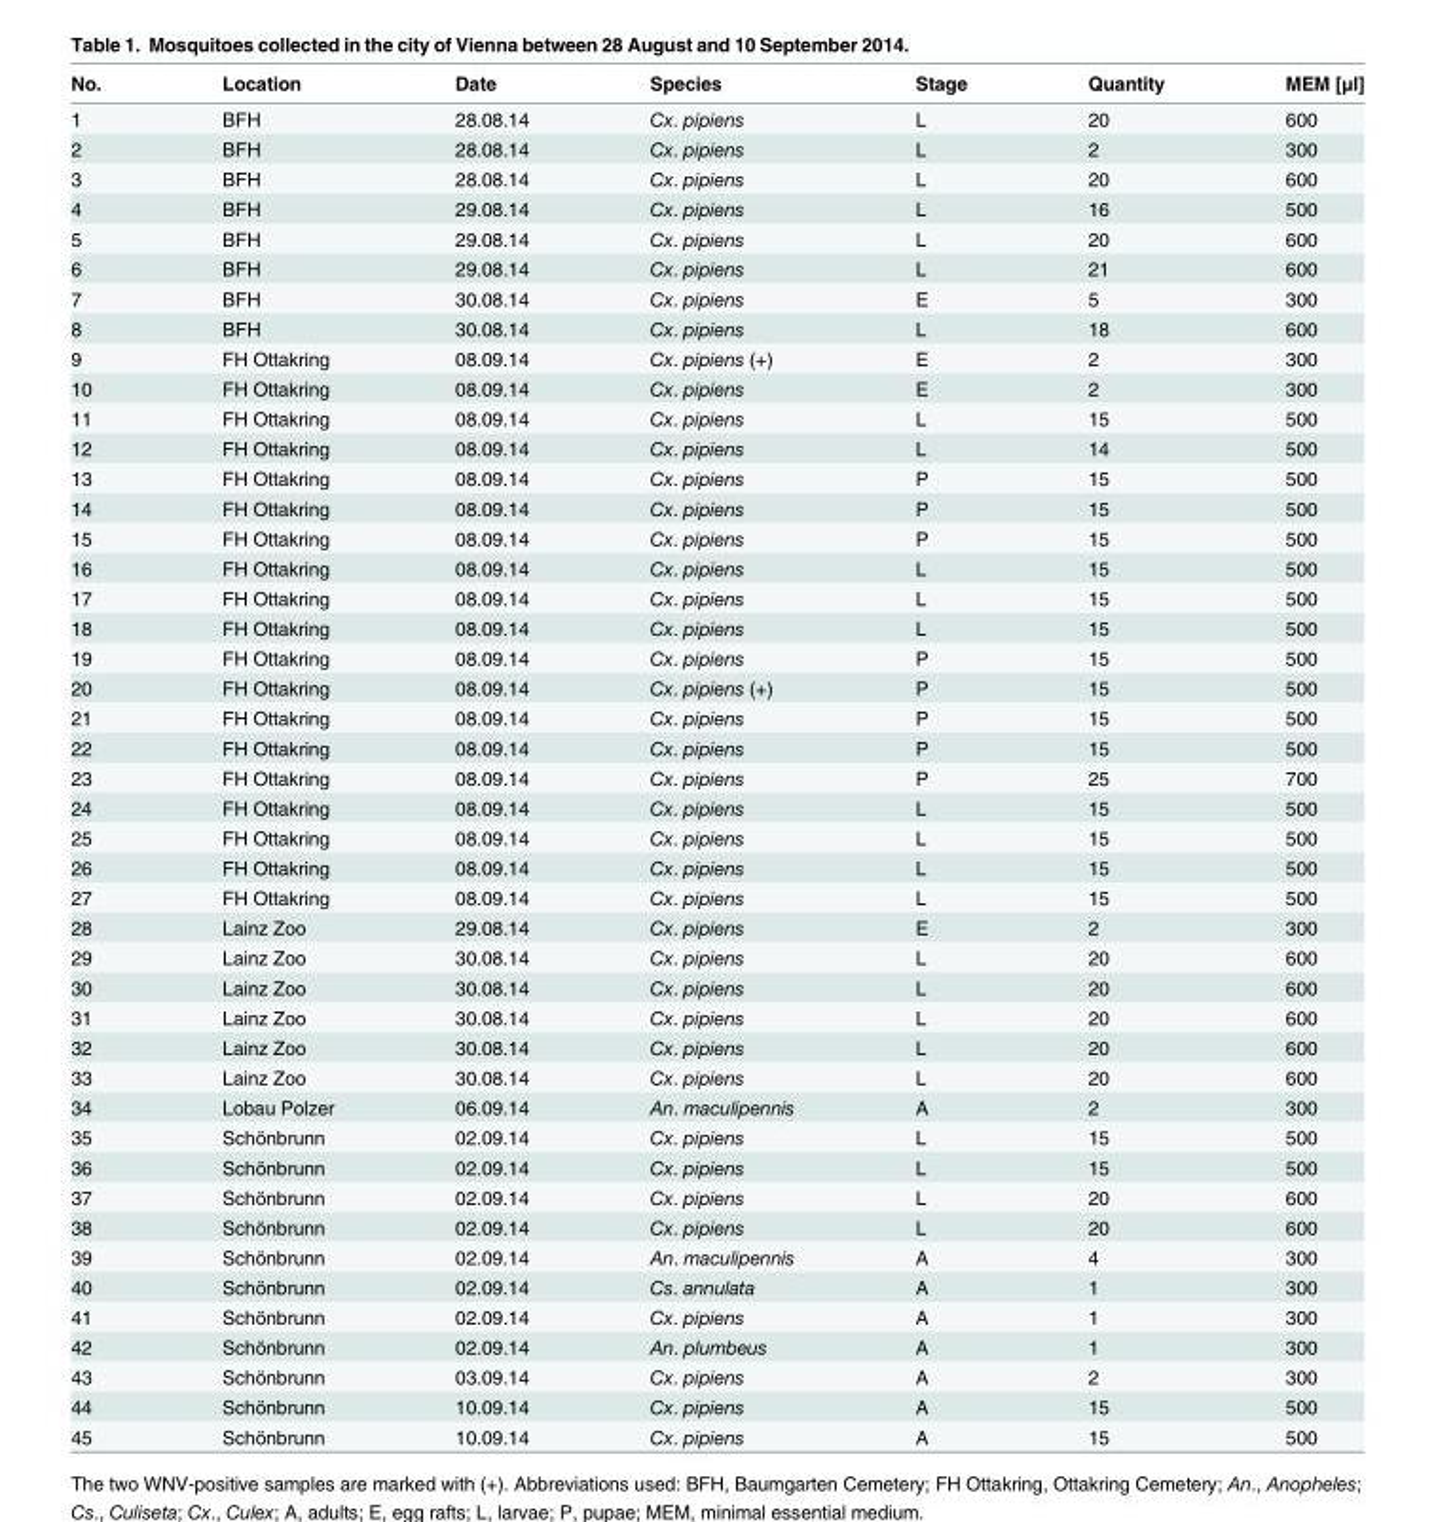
<table><thead><tr><td>No.</td><td>Location</td><td>Date</td><td>Species</td><td>Stage</td><td>Quantity</td><td>MEM [μl]</td></tr></thead><tbody><tr><td>1</td><td>BFH</td><td>28.08.14</td><td>Cx. pipiens</td><td>L</td><td>20</td><td>600</td></tr><tr><td>2</td><td>BFH</td><td>28.08.14</td><td>Cx. pipiens</td><td>L</td><td>2</td><td>300</td></tr><tr><td>3</td><td>BFH</td><td>28.08.14</td><td>Cx. pipiens</td><td>L</td><td>20</td><td>600</td></tr><tr><td>4</td><td>BFH</td><td>29.08.14</td><td>Cx. pipiens</td><td>L</td><td>16</td><td>500</td></tr><tr><td>5</td><td>BFH</td><td>29.08.14</td><td>Cx. pipiens</td><td>L</td><td>20</td><td>600</td></tr><tr><td>6</td><td>BFH</td><td>29.08.14</td><td>Cx. pipiens</td><td>L</td><td>21</td><td>600</td></tr><tr><td>7</td><td>BFH</td><td>30.08.14</td><td>Cx. pipiens</td><td>E</td><td>5</td><td>300</td></tr><tr><td>8</td><td>BFH</td><td>30.08.14</td><td>Cx. pipiens</td><td>L</td><td>18</td><td>600</td></tr><tr><td>9</td><td>FH Ottakring</td><td>08.09.14</td><td>Cx. pipiens (+)</td><td>E</td><td>2</td><td>300</td></tr><tr><td>10</td><td>FH Ottakring</td><td>08.09.14</td><td>Cx. pipiens</td><td>E</td><td>2</td><td>300</td></tr><tr><td>11</td><td>FH Ottakring</td><td>08.09.14</td><td>Cx. pipiens</td><td>L</td><td>15</td><td>500</td></tr><tr><td>12</td><td>FH Ottakring</td><td>08.09.14</td><td>Cx. pipiens</td><td>L</td><td>14</td><td>500</td></tr><tr><td>13</td><td>FH Ottakring</td><td>08.09.14</td><td>Cx. pipiens</td><td>P</td><td>15</td><td>500</td></tr><tr><td>14</td><td>FH Ottakring</td><td>08.09.14</td><td>Cx. pipiens</td><td>P</td><td>15</td><td>500</td></tr><tr><td>15</td><td>FH Ottakring</td><td>08.09.14</td><td>Cx. pipiens</td><td>P</td><td>15</td><td>500</td></tr><tr><td>16</td><td>FH Ottakring</td><td>08.09.14</td><td>Cx. pipiens</td><td>L</td><td>15</td><td>500</td></tr><tr><td>17</td><td>FH Ottakring</td><td>08.09.14</td><td>Cx. pipiens</td><td>L</td><td>15</td><td>500</td></tr><tr><td>18</td><td>FH Ottakring</td><td>08.09.14</td><td>Cx. pipiens</td><td>L</td><td>15</td><td>500</td></tr><tr><td>19</td><td>FH Ottakring</td><td>08.09.14</td><td>Cx. pipiens</td><td>P</td><td>15</td><td>500</td></tr><tr><td>20</td><td>FH Ottakring</td><td>08.09.14</td><td>Cx. pipiens (+)</td><td>P</td><td>15</td><td>500</td></tr><tr><td>21</td><td>FH Ottakring</td><td>08.09.14</td><td>Cx. pipiens</td><td>P</td><td>15</td><td>500</td></tr><tr><td>22</td><td>FH Ottakring</td><td>08.09.14</td><td>Cx. pipiens</td><td>P</td><td>15</td><td>500</td></tr><tr><td>23</td><td>FH Ottakring</td><td>08.09.14</td><td>Cx. pipiens</td><td>P</td><td>25</td><td>700</td></tr><tr><td>24</td><td>FH Ottakring</td><td>08.09.14</td><td>Cx. pipiens</td><td>L</td><td>15</td><td>500</td></tr><tr><td>25</td><td>FH Ottakring</td><td>08.09.14</td><td>Cx. pipiens</td><td>L</td><td>15</td><td>500</td></tr><tr><td>26</td><td>FH Ottakring</td><td>08.09.14</td><td>Cx. pipiens</td><td>L</td><td>15</td><td>500</td></tr><tr><td>27</td><td>FH Ottakring</td><td>08.09.14</td><td>Cx. pipiens</td><td>L</td><td>15</td><td>500</td></tr><tr><td>28</td><td>Lainz Zoo</td><td>29.08.14</td><td>Cx. pipiens</td><td>E</td><td>2</td><td>300</td></tr><tr><td>29</td><td>Lainz Zoo</td><td>30.08.14</td><td>Cx. pipiens</td><td>L</td><td>20</td><td>600</td></tr><tr><td>30</td><td>Lainz Zoo</td><td>30.08.14</td><td>Cx. pipiens</td><td>L</td><td>20</td><td>600</td></tr><tr><td>31</td><td>Lainz Zoo</td><td>30.08.14</td><td>Cx. pipiens</td><td>L</td><td>20</td><td>600</td></tr><tr><td>32</td><td>Lainz Zoo</td><td>30.08.14</td><td>Cx. pipiens</td><td>L</td><td>20</td><td>600</td></tr><tr><td>33</td><td>Lainz Zoo</td><td>30.08.14</td><td>Cx. pipiens</td><td>L</td><td>20</td><td>600</td></tr><tr><td>34</td><td>Lobau Polzer</td><td>06.09.14</td><td>An. maculipennis</td><td>A</td><td>2</td><td>300</td></tr><tr><td>35</td><td>Schönbrunn</td><td>02.09.14</td><td>Cx. pipiens</td><td>L</td><td>15</td><td>500</td></tr><tr><td>36</td><td>Schönbrunn</td><td>02.09.14</td><td>Cx. pipiens</td><td>L</td><td>15</td><td>500</td></tr><tr><td>37</td><td>Schönbrunn</td><td>02.09.14</td><td>Cx. pipiens</td><td>L</td><td>20</td><td>600</td></tr><tr><td>38</td><td>Schönbrunn</td><td>02.09.14</td><td>Cx. pipiens</td><td>L</td><td>20</td><td>600</td></tr><tr><td>39</td><td>Schönbrunn</td><td>02.09.14</td><td>An. maculipennis</td><td>A</td><td>4</td><td>300</td></tr><tr><td>40</td><td>Schönbrunn</td><td>02.09.14</td><td>Cs. annulata</td><td>A</td><td>1</td><td>300</td></tr><tr><td>41</td><td>Schönbrunn</td><td>02.09.14</td><td>Cx. pipiens</td><td>A</td><td>1</td><td>300</td></tr><tr><td>42</td><td>Schönbrunn</td><td>02.09.14</td><td>An. plumbeus</td><td>A</td><td>1</td><td>300</td></tr><tr><td>43</td><td>Schönbrunn</td><td>03.09.14</td><td>Cx. pipiens</td><td>A</td><td>2</td><td>300</td></tr><tr><td>44</td><td>Schönbrunn</td><td>10.09.14</td><td>Cx. pipiens</td><td>A</td><td>15</td><td>500</td></tr><tr><td>45</td><td>Schönbrunn</td><td>10.09.14</td><td>Cx. pipiens</td><td>A</td><td>15</td><td>500</td></tr></tbody></table>